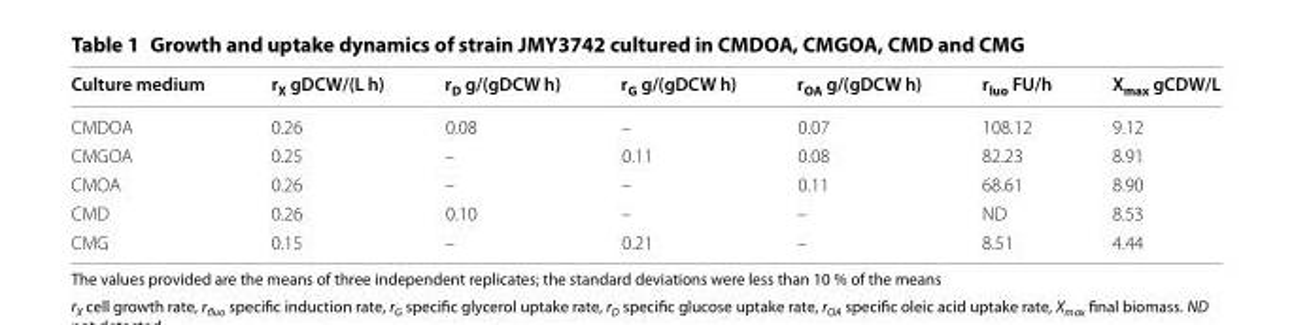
<table><thead><tr><td>Culture medium</td><td>r<sub>X</sub> gDCW/(L h)</td><td>r<sub>D</sub> g/(gDCW h)</td><td>r<sub>G</sub> g/(gDCW h)</td><td>r<sub>OA</sub> g/(gDCW h)</td><td>r<sub>luo</sub> FU/h</td><td>X<sub>max</sub> gCDW/L</td></tr></thead><tbody><tr><td>CMDOA</td><td>0.26</td><td>0.08</td><td>–</td><td>0.07</td><td>108.12</td><td>9.12</td></tr><tr><td>CMGOA</td><td>0.25</td><td>–</td><td>0.11</td><td>0.08</td><td>82.23</td><td>8.91</td></tr><tr><td>CMOA</td><td>0.26</td><td>–</td><td>–</td><td>0.11</td><td>68.61</td><td>8.90</td></tr><tr><td>CMD</td><td>0.26</td><td>0.10</td><td>–</td><td>–</td><td>ND</td><td>8.53</td></tr><tr><td>CMG</td><td>0.15</td><td>–</td><td>0.21</td><td>–</td><td>8.51</td><td>4.44</td></tr></tbody></table>